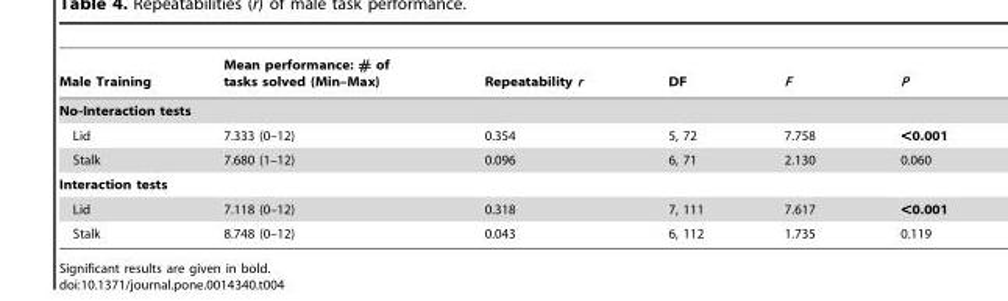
<table><thead><tr><td>Male Training</td><td>Mean performance: # of tasks solved (Min–Max)</td><td>Repeatability r</td><td>DF</td><td>F</td><td>P</td></tr></thead><tbody><tr><td colspan="6">No-Interaction tests</td></tr><tr><td>Lid</td><td>7.333 (0–12)</td><td>0.354</td><td>5, 72</td><td>7.758</td><td>&lt;0.001</td></tr><tr><td>Stalk</td><td>7.680 (1–12)</td><td>0.096</td><td>6, 71</td><td>2.130</td><td>0.060</td></tr><tr><td colspan="6">Interaction tests</td></tr><tr><td>Lid</td><td>7.118 (0–12)</td><td>0.318</td><td>7, 111</td><td>7.617</td><td>&lt;0.001</td></tr><tr><td>Stalk</td><td>8.748 (0–12)</td><td>0.043</td><td>6, 112</td><td>1.735</td><td>0.119</td></tr></tbody></table>